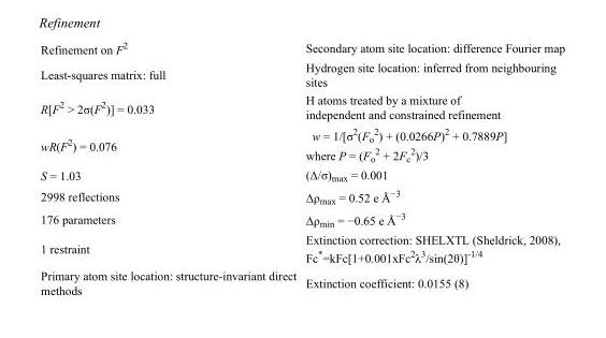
<table><tbody><tr><td>Refinement on F<sup>2</sup></td><td>Secondary atom site location: difference Fourier map</td></tr><tr><td>Least-squares matrix: full</td><td>Hydrogen site location: inferred from neighbouring sites</td></tr><tr><td>R[F<sup>2</sup> &gt; 2σ(F<sup>2</sup>)] = 0.033</td><td>H atoms treated by a mixture of independent and constrained refinement</td></tr><tr><td>wR(F<sup>2</sup>) = 0.076</td><td>w = 1/[σ<sup>2</sup>(F<sub>o</sub> <sup>2</sup>) + (0.0266P)<sup>2</sup> + 0.7889P] where P = (F<sub>o</sub> <sup>2</sup> + 2F<sub>c</sub> <sup>2</sup>)/3</td></tr><tr><td>S = 1.03</td><td>(Δ/σ)<sub>max</sub> = 0.001</td></tr><tr><td>2998 reflections</td><td>Δρ<sub>max</sub> = 0.52 e Å<sup>−3</sup></td></tr><tr><td>176 parameters</td><td>Δρ<sub>min</sub> = −0.65 e Å<sup>−3</sup></td></tr><tr><td>1 restraint</td><td>Extinction correction: SHELXTL (Sheldrick, 2008), Fc*=kFc[1+0.001xFc<sup>2</sup>λ<sup>3</sup>/sin(2θ)]<sup>-1/4</sup></td></tr><tr><td>Primary atom site location: structure-invariant direct methods</td><td>Extinction coefficient: 0.0155 (8)</td></tr></tbody></table>